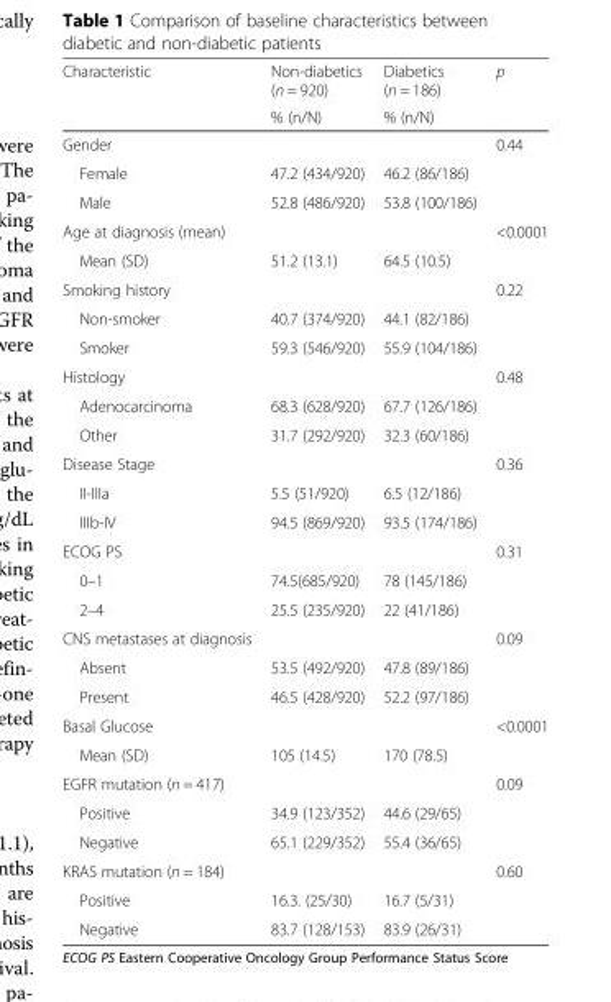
<table><thead><tr><td rowspan="2">Characteristic</td><td rowspan="2">Non-diabetics (n = 920) % (n/N)</td><td rowspan="2">Diabetics (n = 186) % (n/N)</td><td rowspan="2">p</td></tr><tr></tr></thead><tbody><tr><td>Gender</td><td></td><td></td><td>0.44</td></tr><tr><td>Female</td><td>47.2 (434/920)</td><td>46.2 (86/186)</td><td></td></tr><tr><td>Male</td><td>52.8 (486/920)</td><td>53.8 (100/186)</td><td></td></tr><tr><td>Age at diagnosis (mean)</td><td></td><td></td><td>&lt;0.0001</td></tr><tr><td>Mean (SD)</td><td>51.2 (13.1)</td><td>64.5 (10.5)</td><td></td></tr><tr><td>Smoking history</td><td></td><td></td><td>0.22</td></tr><tr><td>Non-smoker</td><td>40.7 (374/920)</td><td>44.1 (82/186)</td><td></td></tr><tr><td>Smoker</td><td>59.3 (546/920)</td><td>55.9 (104/186)</td><td></td></tr><tr><td>Histology</td><td></td><td></td><td>0.48</td></tr><tr><td>Adenocarcinoma</td><td>68.3 (628/920)</td><td>67.7 (126/186)</td><td></td></tr><tr><td>Other</td><td>31.7 (292/920)</td><td>32.3 (60/186)</td><td></td></tr><tr><td>Disease Stage</td><td></td><td></td><td>0.36</td></tr><tr><td>II-IIIa</td><td>5.5 (51/920)</td><td>6.5 (12/186)</td><td></td></tr><tr><td>IIIb-IV</td><td>94.5 (869/920)</td><td>93.5 (174/186)</td><td></td></tr><tr><td>ECOG PS</td><td></td><td></td><td>0.31</td></tr><tr><td>0–1</td><td>74.5(685/920)</td><td>78 (145/186)</td><td></td></tr><tr><td>2–4</td><td>25.5 (235/920)</td><td>22 (41/186)</td><td></td></tr><tr><td>CNS metastases at diagnosis</td><td></td><td></td><td>0.09</td></tr><tr><td>Absent</td><td>53.5 (492/920)</td><td>47.8 (89/186)</td><td></td></tr><tr><td>Present</td><td>46.5 (428/920)</td><td>52.2 (97/186)</td><td></td></tr><tr><td>Basal Glucose</td><td></td><td></td><td>&lt;0.0001</td></tr><tr><td>Mean (SD)</td><td>105 (14.5)</td><td>170 (78.5)</td><td></td></tr><tr><td>EGFR mutation (n = 417)</td><td></td><td></td><td>0.09</td></tr><tr><td>Positive</td><td>34.9 (123/352)</td><td>44.6 (29/65)</td><td></td></tr><tr><td>Negative</td><td>65.1 (229/352)</td><td>55.4 (36/65)</td><td></td></tr><tr><td>KRAS mutation (n = 184)</td><td></td><td></td><td>0.60</td></tr><tr><td>Positive</td><td>16.3. (25/30)</td><td>16.7 (5/31)</td><td></td></tr><tr><td>Negative</td><td>83.7 (128/153)</td><td>83.9 (26/31)</td><td></td></tr></tbody></table>